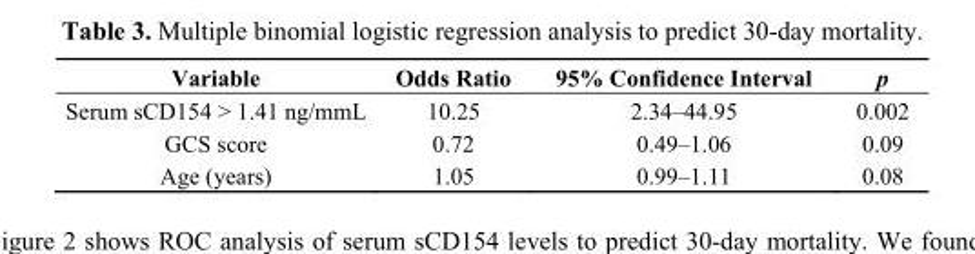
<table><thead><tr><td>Variable</td><td>Odds Ratio</td><td>95% Confidence Interval</td><td>p</td></tr></thead><tbody><tr><td>Serum sCD154 &gt; 1.41 ng/mmL</td><td>10.25</td><td>2.34–44.95</td><td>0.002</td></tr><tr><td>GCS score</td><td>0.72</td><td>0.49–1.06</td><td>0.09</td></tr><tr><td>Age (years)</td><td>1.05</td><td>0.99–1.11</td><td>0.08</td></tr></tbody></table>